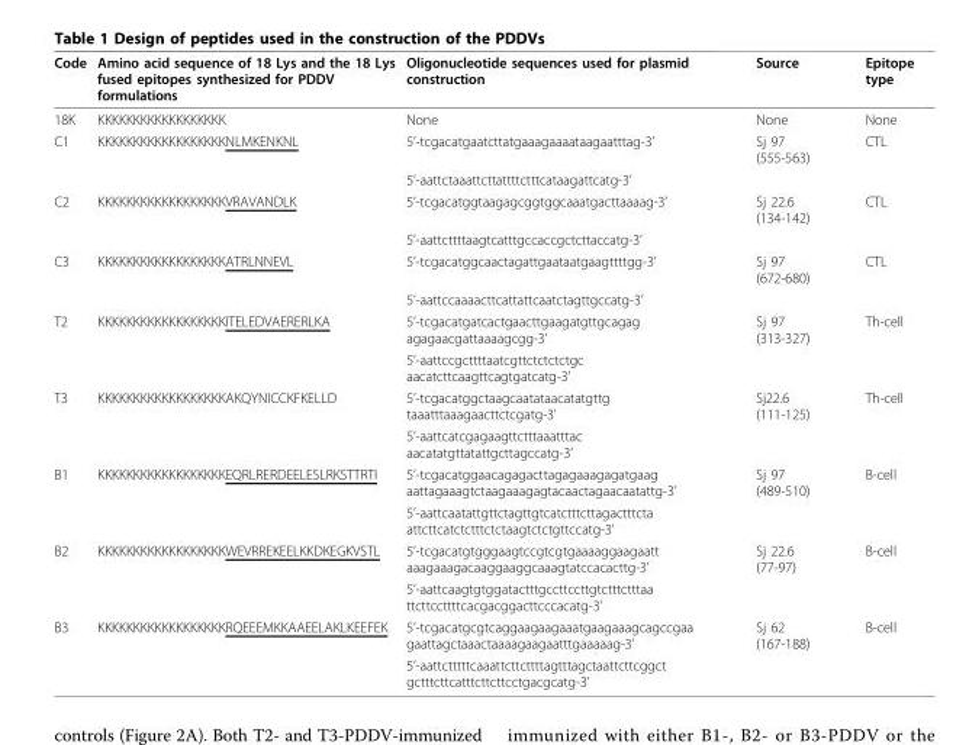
<table><thead><tr><td>Code</td><td>Amino acid sequence of 18 Lys and the 18 Lys fused epitopes synthesized for PDDV formulations</td><td>Oligonucleotide sequences used for plasmid construction</td><td>Source</td><td>Epitope type</td></tr></thead><tbody><tr><td>18K</td><td>KKKKKKKKKKKKKKKKKK</td><td>None</td><td>None</td><td>None</td></tr><tr><td rowspan="2">C1</td><td>KKKKKKKKKKKKKKKKKKNLMKENKNL</td><td>5’-tcgacatgaatcttatgaaagaaaataagaatttag-3’</td><td>Sj 97 (555-563)</td><td>CTL</td></tr><tr><td></td><td>5’-aattctaaattcttattttctttcataagattcatg-3’</td><td></td><td></td></tr><tr><td rowspan="2">C2</td><td>KKKKKKKKKKKKKKKKKKVRAVANDLK</td><td>5’-tcgacatggtaagagcggtggcaaatgacttaaaag-3’</td><td>Sj 22.6 (134-142)</td><td>CTL</td></tr><tr><td></td><td>5’-aattcttttaagtcatttgccaccgctcttaccatg-3’</td><td></td><td></td></tr><tr><td rowspan="2">C3</td><td>KKKKKKKKKKKKKKKKKKATRLNNEVL</td><td>5’-tcgacatggcaactagattgaataatgaagttttgg-3’</td><td>Sj 97 (672-680)</td><td>CTL</td></tr><tr><td></td><td>5’-aattccaaaacttcattattcaatctagttgccatg-3’</td><td></td><td></td></tr><tr><td rowspan="2">T2</td><td>KKKKKKKKKKKKKKKKKKITELEDVAERERLKA</td><td>5’-tcgacatgatcactgaacttgaagatgttgcagag agagaacgattaaaagcgg-3’</td><td>Sj 97 (313-327)</td><td>Th-cell</td></tr><tr><td></td><td>5’-aattccgcttttaatcgttctctctctgc aacatcttcaagttcagtgatcatg-3’</td><td></td><td></td></tr><tr><td rowspan="2">T3</td><td>KKKKKKKKKKKKKKKKKKAKQYNICCKFKELLD</td><td>5’-tcgacatggctaagcaatataacatatgttg taaatttaaagaacttctcgatg-3’</td><td>Sj22.6 (111-125)</td><td>Th-cell</td></tr><tr><td></td><td>5’-aattcatcgagaagttctttaaatttac aacatatgttatattgcttagccatg-3’</td><td></td><td></td></tr><tr><td rowspan="2">B1</td><td>KKKKKKKKKKKKKKKKKKEQRLRERDEELESLRKSTTRTI</td><td>5’-tcgacatggaacagagacttagagaaagagatgaag aattagaaagtctaagaaagagtacaactagaacaatattg-3’</td><td>Sj 97 (489-510)</td><td>B-cell</td></tr><tr><td></td><td>5’-aattcaatattgttctagttgtcatctttcttagactttcta attcttcatctctttctctaagtctctgttccatg-3’</td><td></td><td></td></tr><tr><td rowspan="2">B2</td><td>KKKKKKKKKKKKKKKKKKWEVRREKEELKKDKEGKVSTL</td><td>5’-tcgacatgtgggaagtccgtcgtgaaaaggaagaatt aaagaaagacaaggaaggcaaagtatccacacttg-3’</td><td>Sj 22.6 (77-97)</td><td>B-cell</td></tr><tr><td></td><td>5’-aattcaagtgtggatactttgccttccttgtctttctttaa ttcttccttttcacgacggacttcccacatg-3’</td><td></td><td></td></tr><tr><td rowspan="2">B3</td><td>KKKKKKKKKKKKKKKKKKRQEEEMKKAAEELAKLKEEFEK</td><td>5’-tcgacatgcgtcaggaagaagaaatgaagaaagcagccgaa gaattagctaaactaaaagaagaatttgaaaaag-3’</td><td>Sj 62 (167-188)</td><td>B-cell</td></tr><tr><td></td><td>5’-aattctttttcaaattcttcttttagtttagctaattcttcggct gctttcttcatttcttcttcctgacgcatg-3’</td><td></td><td></td></tr></tbody></table>